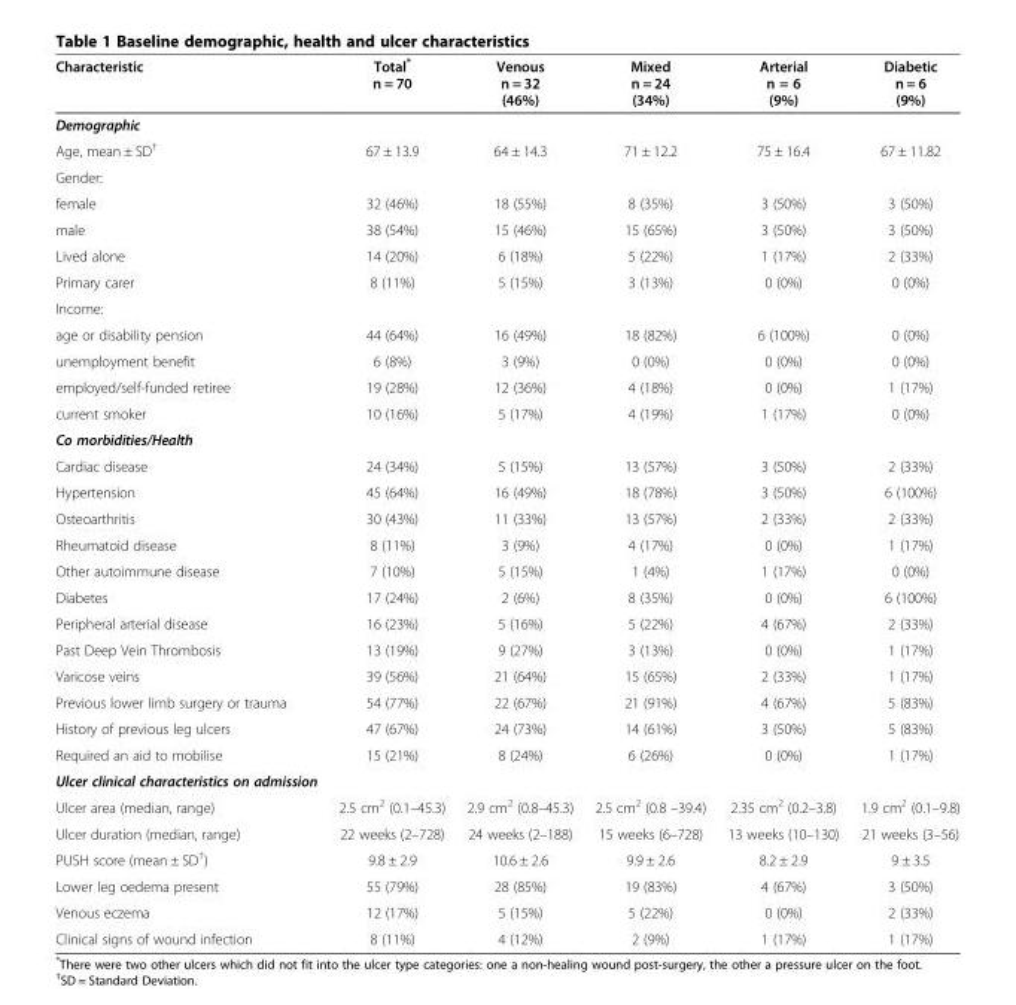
<table><thead><tr><td>Characteristic</td><td>Total* n = 70</td><td>Venous n = 32 (46%)</td><td>Mixed n = 24 (34%)</td><td>Arterial n = 6 (9%)</td><td>Diabetic n = 6 (9%)</td></tr></thead><tbody><tr><td colspan="6">Demographic</td></tr><tr><td>Age, mean ± SD<sup>†</sup></td><td>67 ± 13.9</td><td>64 ± 14.3</td><td>71 ± 12.2</td><td>75 ± 16.4</td><td>67 ± 11.82</td></tr><tr><td colspan="6">Gender:</td></tr><tr><td>female</td><td>32 (46%)</td><td>18 (55%)</td><td>8 (35%)</td><td>3 (50%)</td><td>3 (50%)</td></tr><tr><td>male</td><td>38 (54%)</td><td>15 (46%)</td><td>15 (65%)</td><td>3 (50%)</td><td>3 (50%)</td></tr><tr><td>Lived alone</td><td>14 (20%)</td><td>6 (18%)</td><td>5 (22%)</td><td>1 (17%)</td><td>2 (33%)</td></tr><tr><td>Primary carer</td><td>8 (11%)</td><td>5 (15%)</td><td>3 (13%)</td><td>0 (0%)</td><td>0 (0%)</td></tr><tr><td colspan="6">Income:</td></tr><tr><td>age or disability pension</td><td>44 (64%)</td><td>16 (49%)</td><td>18 (82%)</td><td>6 (100%)</td><td>0 (0%)</td></tr><tr><td>unemployment benefit</td><td>6 (8%)</td><td>3 (9%)</td><td>0 (0%)</td><td>0 (0%)</td><td>0 (0%)</td></tr><tr><td>employed/self-funded retiree</td><td>19 (28%)</td><td>12 (36%)</td><td>4 (18%)</td><td>0 (0%)</td><td>1 (17%)</td></tr><tr><td>current smoker</td><td>10 (16%)</td><td>5 (17%)</td><td>4 (19%)</td><td>1 (17%)</td><td>0 (0%)</td></tr><tr><td colspan="6">Co morbidities/Health</td></tr><tr><td>Cardiac disease</td><td>24 (34%)</td><td>5 (15%)</td><td>13 (57%)</td><td>3 (50%)</td><td>2 (33%)</td></tr><tr><td>Hypertension</td><td>45 (64%)</td><td>16 (49%)</td><td>18 (78%)</td><td>3 (50%)</td><td>6 (100%)</td></tr><tr><td>Osteoarthritis</td><td>30 (43%)</td><td>11 (33%)</td><td>13 (57%)</td><td>2 (33%)</td><td>2 (33%)</td></tr><tr><td>Rheumatoid disease</td><td>8 (11%)</td><td>3 (9%)</td><td>4 (17%)</td><td>0 (0%)</td><td>1 (17%)</td></tr><tr><td>Other autoimmune disease</td><td>7 (10%)</td><td>5 (15%)</td><td>1 (4%)</td><td>1 (17%)</td><td>0 (0%)</td></tr><tr><td>Diabetes</td><td>17 (24%)</td><td>2 (6%)</td><td>8 (35%)</td><td>0 (0%)</td><td>6 (100%)</td></tr><tr><td>Peripheral arterial disease</td><td>16 (23%)</td><td>5 (16%)</td><td>5 (22%)</td><td>4 (67%)</td><td>2 (33%)</td></tr><tr><td>Past Deep Vein Thrombosis</td><td>13 (19%)</td><td>9 (27%)</td><td>3 (13%)</td><td>0 (0%)</td><td>1 (17%)</td></tr><tr><td>Varicose veins</td><td>39 (56%)</td><td>21 (64%)</td><td>15 (65%)</td><td>2 (33%)</td><td>1 (17%)</td></tr><tr><td>Previous lower limb surgery or trauma</td><td>54 (77%)</td><td>22 (67%)</td><td>21 (91%)</td><td>4 (67%)</td><td>5 (83%)</td></tr><tr><td>History of previous leg ulcers</td><td>47 (67%)</td><td>24 (73%)</td><td>14 (61%)</td><td>3 (50%)</td><td>5 (83%)</td></tr><tr><td>Required an aid to mobilise</td><td>15 (21%)</td><td>8 (24%)</td><td>6 (26%)</td><td>0 (0%)</td><td>1 (17%)</td></tr><tr><td colspan="6">Ulcer clinical characteristics on admission</td></tr><tr><td>Ulcer area (median, range)</td><td>2.5 cm<sup>2</sup> (0.1–45.3)</td><td>2.9 cm<sup>2</sup> (0.8–45.3)</td><td>2.5 cm<sup>2</sup> (0.8 –39.4)</td><td>2.35 cm<sup>2</sup> (0.2–3.8)</td><td>1.9 cm<sup>2</sup> (0.1–9.8)</td></tr><tr><td>Ulcer duration (median, range)</td><td>22 weeks (2–728)</td><td>24 weeks (2–188)</td><td>15 weeks (6–728)</td><td>13 weeks (10–130)</td><td>21 weeks (3–56)</td></tr><tr><td>PUSH score (mean ± SD<sup>†</sup>)</td><td>9.8 ± 2.9</td><td>10.6 ± 2.6</td><td>9.9 ± 2.6</td><td>8.2 ± 2.9</td><td>9 ± 3.5</td></tr><tr><td>Lower leg oedema present</td><td>55 (79%)</td><td>28 (85%)</td><td>19 (83%)</td><td>4 (67%)</td><td>3 (50%)</td></tr><tr><td>Venous eczema</td><td>12 (17%)</td><td>5 (15%)</td><td>5 (22%)</td><td>0 (0%)</td><td>2 (33%)</td></tr><tr><td>Clinical signs of wound infection</td><td>8 (11%)</td><td>4 (12%)</td><td>2 (9%)</td><td>1 (17%)</td><td>1 (17%)</td></tr></tbody></table>